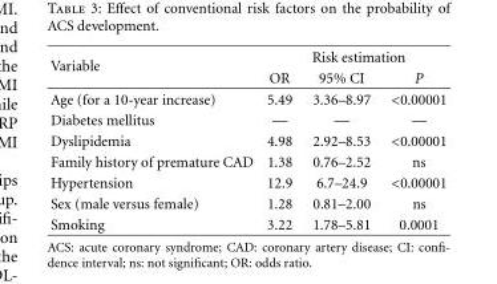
<table><thead><tr><td rowspan="2">Variable</td><td colspan="3">Risk estimation</td></tr><tr><td>OR</td><td>95% CI</td><td>P</td></tr></thead><tbody><tr><td>Age (for a 10-year increase)</td><td>5.49</td><td>3.36–8.97</td><td>&lt;0.00001</td></tr><tr><td>Diabetes mellitus</td><td>—</td><td>—</td><td>—</td></tr><tr><td>Dyslipidemia</td><td>4.98</td><td>2.92–8.53</td><td>&lt;0.00001</td></tr><tr><td>Family history of premature CAD</td><td>1.38</td><td>0.76–2.52</td><td>ns</td></tr><tr><td>Hypertension</td><td>12.9</td><td>6.7–24.9</td><td>&lt;0.00001</td></tr><tr><td>Sex (male versus female)</td><td>1.28</td><td>0.81–2.00</td><td>ns</td></tr><tr><td>Smoking</td><td>3.22</td><td>1.78–5.81</td><td>0.0001</td></tr></tbody></table>